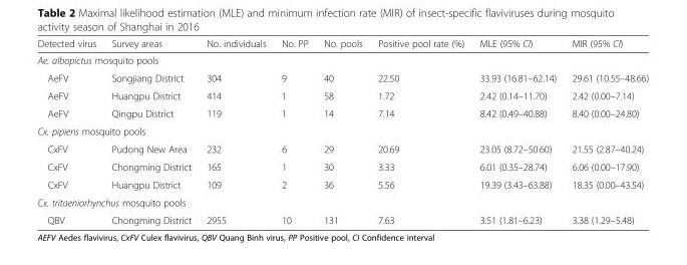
<table><thead><tr><td>Detected virus</td><td>Survey areas</td><td>No. individuals</td><td>No. PP</td><td>No. pools</td><td>Positive pool rate (%)</td><td>MLE (95% CI)</td><td>MIR (95% CI)</td></tr></thead><tbody><tr><td colspan="8">Ae. albopictus mosquito pools</td></tr><tr><td>AeFV</td><td>Songjiang District</td><td>304</td><td>9</td><td>40</td><td>22.50</td><td>33.93 (16.81–62.14)</td><td>29.61 (10.55–48.66)</td></tr><tr><td>AeFV</td><td>Huangpu District</td><td>414</td><td>1</td><td>58</td><td>1.72</td><td>2.42 (0.14–11.70)</td><td>2.42 (0.00–7.14)</td></tr><tr><td>AeFV</td><td>Qingpu District</td><td>119</td><td>1</td><td>14</td><td>7.14</td><td>8.42 (0.49–40.88)</td><td>8.40 (0.00–24.80)</td></tr><tr><td colspan="8">Cx. pipiens mosquito pools</td></tr><tr><td>CxFV</td><td>Pudong New Area</td><td>232</td><td>6</td><td>29</td><td>20.69</td><td>23.05 (8.72–50.60)</td><td>21.55 (2.87–40.24)</td></tr><tr><td>CxFV</td><td>Chongming District</td><td>165</td><td>1</td><td>30</td><td>3.33</td><td>6.01 (0.35–28.74)</td><td>6.06 (0.00–17.90)</td></tr><tr><td>CxFV</td><td>Huangpu District</td><td>109</td><td>2</td><td>36</td><td>5.56</td><td>19.39 (3.43–63.88)</td><td>18.35 (0.00–43.54)</td></tr><tr><td colspan="8">Cx. tritaeniorhynchus mosquito pools</td></tr><tr><td>QBV</td><td>Chongming District</td><td>2955</td><td>10</td><td>131</td><td>7.63</td><td>3.51 (1.81–6.23)</td><td>3.38 (1.29–5.48)</td></tr></tbody></table>